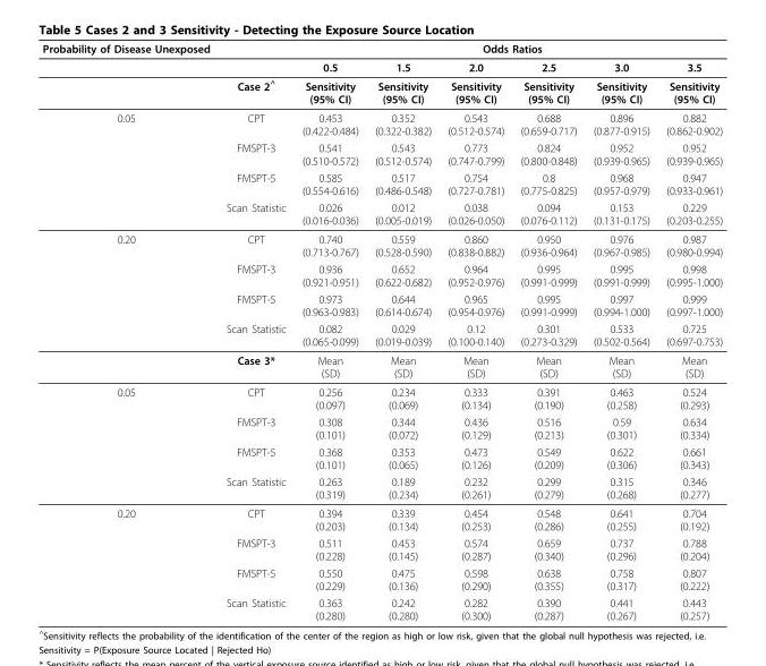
<table><thead><tr><td rowspan="2">Probability of Disease Unexposed</td><td rowspan="2"></td><td colspan="6">Odds Ratios</td></tr><tr><td>0.5</td><td>1.5</td><td>2.0</td><td>2.5</td><td>3.0</td><td>3.5</td></tr></thead><tbody><tr><td></td><td>Case 2<sup>^</sup></td><td>Sensitivity (95% CI)</td><td>Sensitivity (95% CI)</td><td>Sensitivity (95% CI)</td><td>Sensitivity (95% CI)</td><td>Sensitivity (95% CI)</td><td>Sensitivity (95% CI)</td></tr><tr><td rowspan="4">0.05</td><td>CPT</td><td>0.453 (0.422-0.484)</td><td>0.352 (0.322-0.382)</td><td>0.543 (0.512-0.574)</td><td>0.688 (0.659-0.717)</td><td>0.896 (0.877-0.915)</td><td>0.882 (0.862-0.902)</td></tr><tr><td>FMSPT-3</td><td>0.541 (0.510-0.572)</td><td>0.543 (0.512-0.574)</td><td>0.773 (0.747-0.799)</td><td>0.824 (0.800-0.848)</td><td>0.952 (0.939-0.965)</td><td>0.952 (0.939-0.965)</td></tr><tr><td>FMSPT-5</td><td>0.585 (0.554-0.616)</td><td>0.517 (0.486-0.548)</td><td>0.754 (0.727-0.781)</td><td>0.8 (0.775-0.825)</td><td>0.968 (0.957-0.979)</td><td>0.947 (0.933-0.961)</td></tr><tr><td>Scan Statistic</td><td>0.026 (0.016-0.036)</td><td>0.012 (0.005-0.019)</td><td>0.038 (0.026-0.050)</td><td>0.094 (0.076-0.112)</td><td>0.153 (0.131-0.175)</td><td>0.229 (0.203-0.255)</td></tr><tr><td rowspan="5">0.20</td><td>CPT</td><td>0.740 (0.713-0.767)</td><td>0.559 (0.528-0.590)</td><td>0.860 (0.838-0.882)</td><td>0.950 (0.936-0.964)</td><td>0.976 (0.967-0.985)</td><td>0.987 (0.980-0.994)</td></tr><tr><td>FMSPT-3</td><td>0.936 (0.921-0.951)</td><td>0.652 (0.622-0.682)</td><td>0.964 (0.952-0.976)</td><td>0.995 (0.991-0.999)</td><td>0.995 (0.991-0.999)</td><td>0.998 (0.995-1.000)</td></tr><tr><td>FMSPT-5</td><td>0.973 (0.963-0.983)</td><td>0.644 (0.614-0.674)</td><td>0.965 (0.954-0.976)</td><td>0.995 (0.991-0.999)</td><td>0.997 (0.994-1.000)</td><td>0.999 (0.997-1.000)</td></tr><tr><td>Scan Statistic</td><td>0.082 (0.065-0.099)</td><td>0.029 (0.019-0.039)</td><td>0.12 (0.100-0.140)</td><td>0.301 (0.273-0.329)</td><td>0.533 (0.502-0.564)</td><td>0.725 (0.697-0.753)</td></tr><tr><td>Case 3*</td><td>Mean (SD)</td><td>Mean (SD)</td><td>Mean (SD)</td><td>Mean (SD)</td><td>Mean (SD)</td><td>Mean (SD)</td></tr><tr><td rowspan="4">0.05</td><td>CPT</td><td>0.256 (0.097)</td><td>0.234 (0.069)</td><td>0.333 (0.134)</td><td>0.391 (0.190)</td><td>0.463 (0.258)</td><td>0.524 (0.293)</td></tr><tr><td>FMSPT-3</td><td>0.308 (0.101)</td><td>0.344 (0.072)</td><td>0.436 (0.129)</td><td>0.516 (0.213)</td><td>0.59 (0.301)</td><td>0.634 (0.334)</td></tr><tr><td>FMSPT-5</td><td>0.368 (0.101)</td><td>0.353 (0.065)</td><td>0.473 (0.126)</td><td>0.549 (0.209)</td><td>0.622 (0.306)</td><td>0.661 (0.343)</td></tr><tr><td>Scan Statistic</td><td>0.263 (0.319)</td><td>0.189 (0.234)</td><td>0.232 (0.261)</td><td>0.299 (0.279)</td><td>0.315 (0.268)</td><td>0.346 (0.277)</td></tr><tr><td rowspan="4">0.20</td><td>CPT</td><td>0.394 (0.203)</td><td>0.339 (0.134)</td><td>0.454 (0.253)</td><td>0.548 (0.286)</td><td>0.641 (0.255)</td><td>0.704 (0.192)</td></tr><tr><td>FMSPT-3</td><td>0.511 (0.228)</td><td>0.453 (0.145)</td><td>0.574 (0.287)</td><td>0.659 (0.340)</td><td>0.737 (0.296)</td><td>0.788 (0.204)</td></tr><tr><td>FMSPT-5</td><td>0.550 (0.229)</td><td>0.475 (0.136)</td><td>0.598 (0.290)</td><td>0.638 (0.355)</td><td>0.758 (0.317)</td><td>0.807 (0.222)</td></tr><tr><td>Scan Statistic</td><td>0.363 (0.280)</td><td>0.242 (0.280)</td><td>0.282 (0.300)</td><td>0.390 (0.287)</td><td>0.441 (0.267)</td><td>0.443 (0.257)</td></tr></tbody></table>